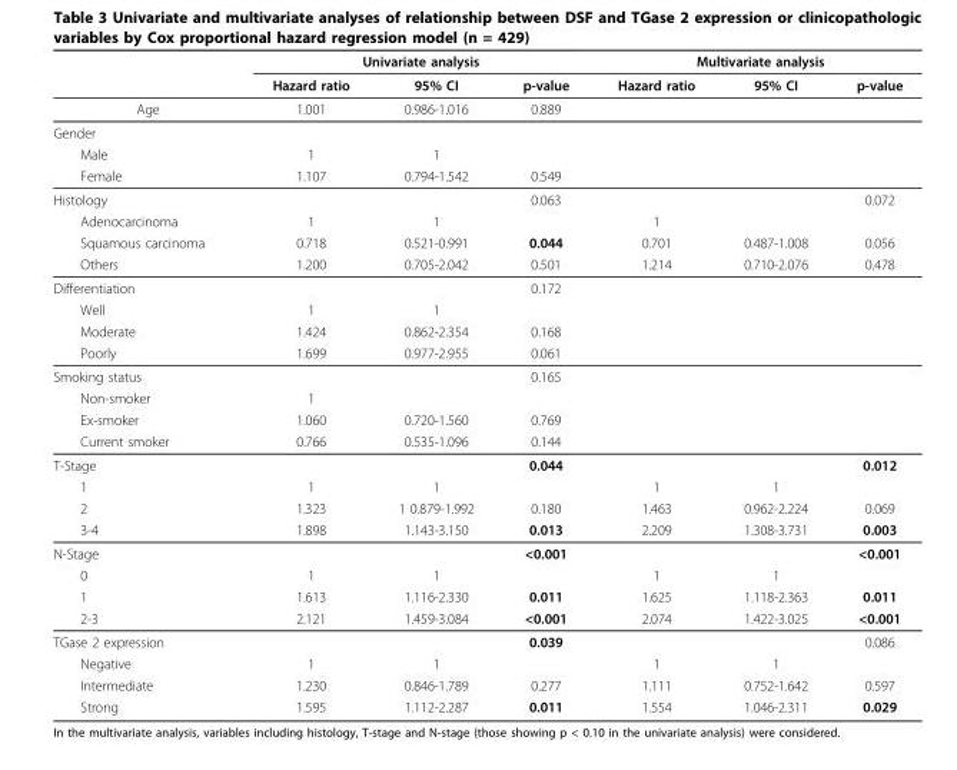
<table><thead><tr><td rowspan="2"></td><td colspan="3">Univariate analysis</td><td colspan="3">Multivariate analysis</td></tr><tr><td>Hazard ratio</td><td>95% CI</td><td>p-value</td><td>Hazard ratio</td><td>95% CI</td><td>p-value</td></tr></thead><tbody><tr><td>Age</td><td>1.001</td><td>0.986-1.016</td><td>0.889</td><td></td><td></td><td></td></tr><tr><td colspan="7">Gender</td></tr><tr><td>Male</td><td>1</td><td>1</td><td></td><td></td><td></td><td></td></tr><tr><td>Female</td><td>1.107</td><td>0.794-1.542</td><td>0.549</td><td></td><td></td><td></td></tr><tr><td>Histology</td><td></td><td></td><td>0.063</td><td></td><td></td><td>0.072</td></tr><tr><td>Adenocarcinoma</td><td>1</td><td>1</td><td></td><td>1</td><td></td><td></td></tr><tr><td>Squamous carcinoma</td><td>0.718</td><td>0.521-0.991</td><td>0.044</td><td>0.701</td><td>0.487-1.008</td><td>0.056</td></tr><tr><td>Others</td><td>1.200</td><td>0.705-2.042</td><td>0.501</td><td>1.214</td><td>0.710-2.076</td><td>0.478</td></tr><tr><td>Differentiation</td><td></td><td></td><td>0.172</td><td></td><td></td><td></td></tr><tr><td>Well</td><td>1</td><td>1</td><td></td><td></td><td></td><td></td></tr><tr><td>Moderate</td><td>1.424</td><td>0.862-2.354</td><td>0.168</td><td></td><td></td><td></td></tr><tr><td>Poorly</td><td>1.699</td><td>0.977-2.955</td><td>0.061</td><td></td><td></td><td></td></tr><tr><td>Smoking status</td><td></td><td></td><td>0.165</td><td></td><td></td><td></td></tr><tr><td>Non-smoker</td><td>1</td><td></td><td></td><td></td><td></td><td></td></tr><tr><td>Ex-smoker</td><td>1.060</td><td>0.720-1.560</td><td>0.769</td><td></td><td></td><td></td></tr><tr><td>Current smoker</td><td>0.766</td><td>0.535-1.096</td><td>0.144</td><td></td><td></td><td></td></tr><tr><td>T-Stage</td><td></td><td></td><td>0.044</td><td></td><td></td><td>0.012</td></tr><tr><td>1</td><td>1</td><td>1</td><td></td><td>1</td><td>1</td><td></td></tr><tr><td>2</td><td>1.323</td><td>1 0.879-1.992</td><td>0.180</td><td>1.463</td><td>0.962-2.224</td><td>0.069</td></tr><tr><td>3-4</td><td>1.898</td><td>1.143-3.150</td><td>0.013</td><td>2.209</td><td>1.308-3.731</td><td>0.003</td></tr><tr><td>N-Stage</td><td></td><td></td><td>&lt;0.001</td><td></td><td></td><td>&lt;0.001</td></tr><tr><td>0</td><td>1</td><td>1</td><td></td><td>1</td><td>1</td><td></td></tr><tr><td>1</td><td>1.613</td><td>1.116-2.330</td><td>0.011</td><td>1.625</td><td>1.118-2.363</td><td>0.011</td></tr><tr><td>2-3</td><td>2.121</td><td>1.459-3.084</td><td>&lt;0.001</td><td>2.074</td><td>1.422-3.025</td><td>&lt;0.001</td></tr><tr><td>TGase 2 expression</td><td></td><td></td><td>0.039</td><td></td><td></td><td>0.086</td></tr><tr><td>Negative</td><td>1</td><td>1</td><td></td><td>1</td><td>1</td><td></td></tr><tr><td>Intermediate</td><td>1.230</td><td>0.846-1.789</td><td>0.277</td><td>1.111</td><td>0.752-1.642</td><td>0.597</td></tr><tr><td>Strong</td><td>1.595</td><td>1.112-2.287</td><td>0.011</td><td>1.554</td><td>1.046-2.311</td><td>0.029</td></tr></tbody></table>